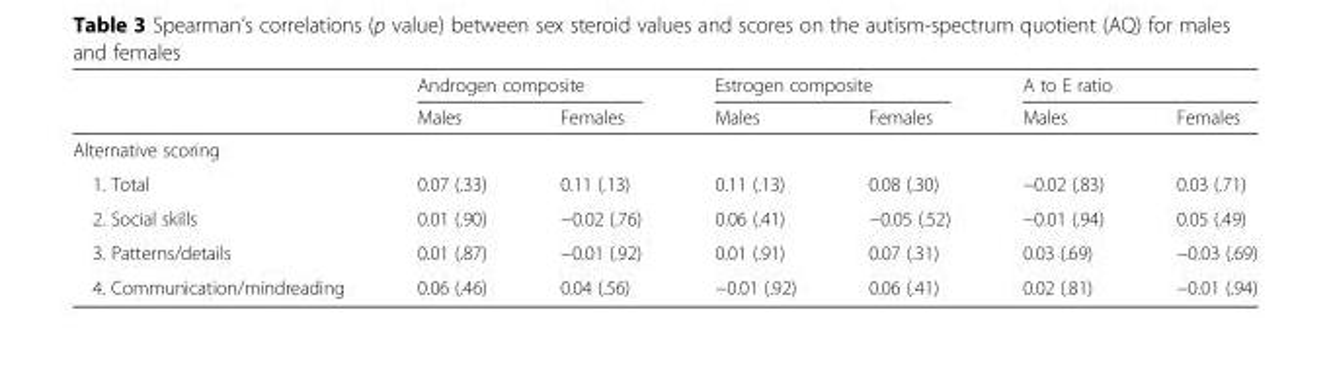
<table><thead><tr><td rowspan="2"></td><td colspan="2">Androgen composite</td><td colspan="2">Estrogen composite</td><td colspan="2">A to E ratio</td></tr><tr><td>Males</td><td>Females</td><td>Males</td><td>Females</td><td>Males</td><td>Females</td></tr></thead><tbody><tr><td colspan="7">Alternative scoring</td></tr><tr><td>1. Total</td><td>0.07 (.33)</td><td>0.11 (.13)</td><td>0.11 (.13)</td><td>0.08 (.30)</td><td>−0.02 (.83)</td><td>0.03 (.71)</td></tr><tr><td>2. Social skills</td><td>0.01 (.90)</td><td>−0.02 (.76)</td><td>0.06 (.41)</td><td>−0.05 (.52)</td><td>−0.01 (.94)</td><td>0.05 (.49)</td></tr><tr><td>3. Patterns/details</td><td>0.01 (.87)</td><td>−0.01 (.92)</td><td>0.01 (.91)</td><td>0.07 (.31)</td><td>0.03 (.69)</td><td>−0.03 (.69)</td></tr><tr><td>4. Communication/mindreading</td><td>0.06 (.46)</td><td>0.04 (.56)</td><td>−0.01 (.92)</td><td>0.06 (.41)</td><td>0.02 (.81)</td><td>−0.01 (.94)</td></tr></tbody></table>